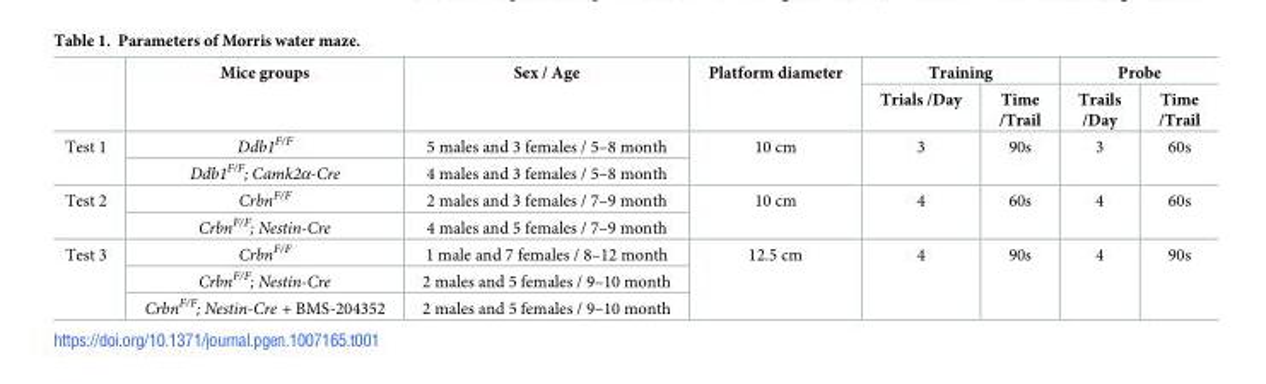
<table><thead><tr><td rowspan="2"></td><td rowspan="2">Mice groups</td><td rowspan="2">Sex / Age</td><td rowspan="2">Platform diameter</td><td colspan="2">Training</td><td colspan="2">Probe</td></tr><tr><td>Trials /Day</td><td>Time /Trail</td><td>Trails /Day</td><td>Time /Trail</td></tr></thead><tbody><tr><td rowspan="2">Test 1</td><td>Ddb1<sup>F/F</sup></td><td>5 males and 3 females / 5–8 month</td><td rowspan="2">10 cm</td><td rowspan="2">3</td><td rowspan="2">90s</td><td rowspan="2">3</td><td rowspan="2">60s</td></tr><tr><td>Ddb1<sup>F/F</sup>; Camk2α-Cre</td><td>4 males and 3 females / 5–8 month</td></tr><tr><td rowspan="2">Test 2</td><td>Crbn<sup>F/F</sup></td><td>2 males and 3 females / 7–9 month</td><td rowspan="2">10 cm</td><td rowspan="2">4</td><td rowspan="2">60s</td><td rowspan="2">4</td><td rowspan="2">60s</td></tr><tr><td>Crbn<sup>F/F</sup>; Nestin-Cre</td><td>4 males and 5 females / 7–9 month</td></tr><tr><td rowspan="3">Test 3</td><td>Crbn<sup>F/F</sup></td><td>1 male and 7 females / 8–12 month</td><td rowspan="3">12.5 cm</td><td rowspan="3">4</td><td rowspan="3">90s</td><td rowspan="3">4</td><td rowspan="3">90s</td></tr><tr><td>Crbn<sup>F/F</sup>; Nestin-Cre</td><td>2 males and 5 females / 9–10 month</td></tr><tr><td>Crbn<sup>F/F</sup>; Nestin-Cre + BMS-204352</td><td>2 males and 5 females / 9–10 month</td></tr></tbody></table>